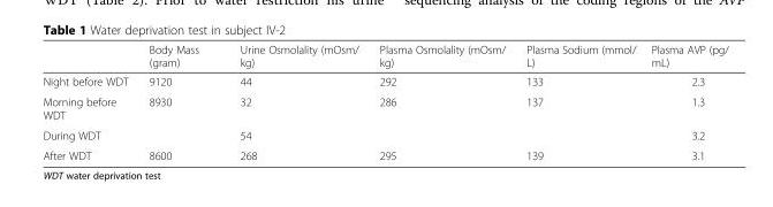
<table><thead><tr><td></td><td>Body Mass (gram)</td><td>Urine Osmolality (mOsm/ kg)</td><td>Plasma Osmolality (mOsm/ kg)</td><td>Plasma Sodium (mmol/ L)</td><td>Plasma AVP (pg/ mL)</td></tr></thead><tbody><tr><td>Night before WDT</td><td>9120</td><td>44</td><td>292</td><td>133</td><td>2.3</td></tr><tr><td>Morning before WDT</td><td>8930</td><td>32</td><td>286</td><td>137</td><td>1.3</td></tr><tr><td>During WDT</td><td></td><td>54</td><td></td><td></td><td>3.2</td></tr><tr><td>After WDT</td><td>8600</td><td>268</td><td>295</td><td>139</td><td>3.1</td></tr></tbody></table>